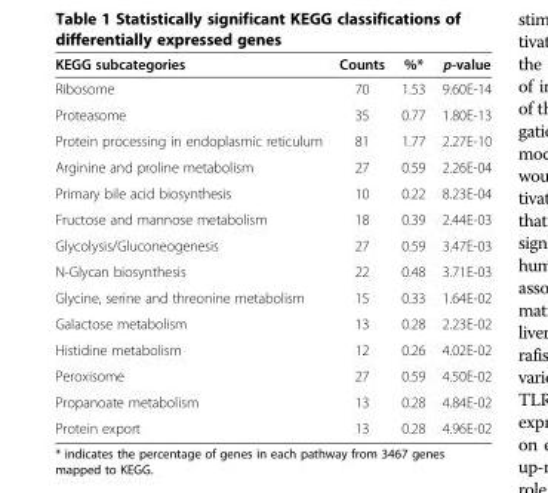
<table><thead><tr><td>KEGG subcategories</td><td>Counts</td><td>%*</td><td>p-value</td></tr></thead><tbody><tr><td>Ribosome</td><td>70</td><td>1.53</td><td>9.60E-14</td></tr><tr><td>Proteasome</td><td>35</td><td>0.77</td><td>1.80E-13</td></tr><tr><td>Protein processing in endoplasmic reticulum</td><td>81</td><td>1.77</td><td>2.27E-10</td></tr><tr><td>Arginine and proline metabolism</td><td>27</td><td>0.59</td><td>2.26E-04</td></tr><tr><td>Primary bile acid biosynthesis</td><td>10</td><td>0.22</td><td>8.23E-04</td></tr><tr><td>Fructose and mannose metabolism</td><td>18</td><td>0.39</td><td>2.44E-03</td></tr><tr><td>Glycolysis/Gluconeogenesis</td><td>27</td><td>0.59</td><td>3.47E-03</td></tr><tr><td>N-Glycan biosynthesis</td><td>22</td><td>0.48</td><td>3.71E-03</td></tr><tr><td>Glycine, serine and threonine metabolism</td><td>15</td><td>0.33</td><td>1.64E-02</td></tr><tr><td>Galactose metabolism</td><td>13</td><td>0.28</td><td>2.23E-02</td></tr><tr><td>Histidine metabolism</td><td>12</td><td>0.26</td><td>4.02E-02</td></tr><tr><td>Peroxisome</td><td>27</td><td>0.59</td><td>4.50E-02</td></tr><tr><td>Propanoate metabolism</td><td>13</td><td>0.28</td><td>4.84E-02</td></tr><tr><td>Protein export</td><td>13</td><td>0.28</td><td>4.96E-02</td></tr></tbody></table>